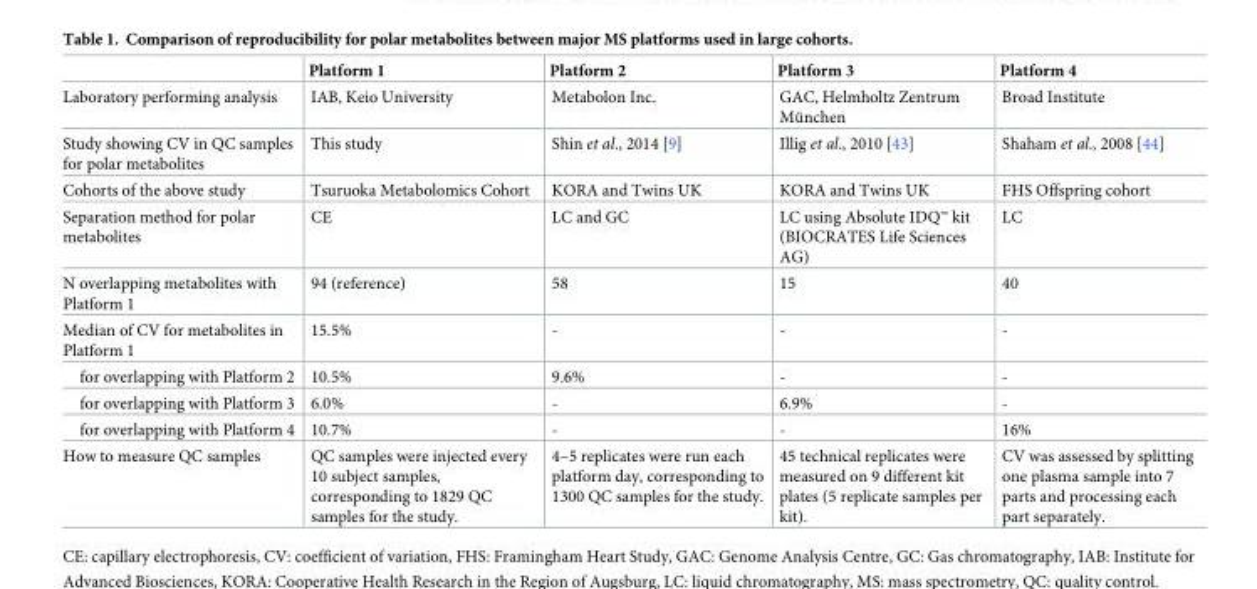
<table><thead><tr><td></td><td>Platform 1</td><td>Platform 2</td><td>Platform 3</td><td>Platform 4</td></tr></thead><tbody><tr><td>Laboratory performing analysis</td><td>IAB, Keio University</td><td>Metabolon Inc.</td><td>GAC, Helmholtz Zentrum Mu¨nchen</td><td>Broad Institute</td></tr><tr><td>Study showing CV in QC samples for polar metabolites</td><td>This study</td><td>Shin et al., 2014 [9]</td><td>Illig et al., 2010 [43]</td><td>Shaham et al., 2008 [44]</td></tr><tr><td>Cohorts of the above study</td><td>Tsuruoka Metabolomics Cohort</td><td>KORA and Twins UK</td><td>KORA and Twins UK</td><td>FHS Offspring cohort</td></tr><tr><td>Separation method for polar metabolites</td><td>CE</td><td>LC and GC</td><td>LC using Absolute IDQ<sup>™</sup> kit (BIOCRATES Life Sciences AG)</td><td>LC</td></tr><tr><td>N overlapping metabolites with Platform 1</td><td>94 (reference)</td><td>58</td><td>15</td><td>40</td></tr><tr><td>Median of CV for metabolites in Platform 1</td><td>15.5%</td><td>-</td><td>-</td><td>-</td></tr><tr><td>for overlapping with Platform 2</td><td>10.5%</td><td>9.6%</td><td>-</td><td>-</td></tr><tr><td>for overlapping with Platform 3</td><td>6.0%</td><td>-</td><td>6.9%</td><td>-</td></tr><tr><td>for overlapping with Platform 4</td><td>10.7%</td><td>-</td><td>-</td><td>16%</td></tr><tr><td>How to measure QC samples</td><td>QC samples were injected every 10 subject samples, corresponding to 1829 QC samples for the study.</td><td>4–5 replicates were run each platform day, corresponding to 1300 QC samples for the study.</td><td>45 technical replicates were measured on 9 different kit plates (5 replicate samples per kit).</td><td>CV was assessed by splitting one plasma sample into 7 parts and processing each part separately.</td></tr></tbody></table>